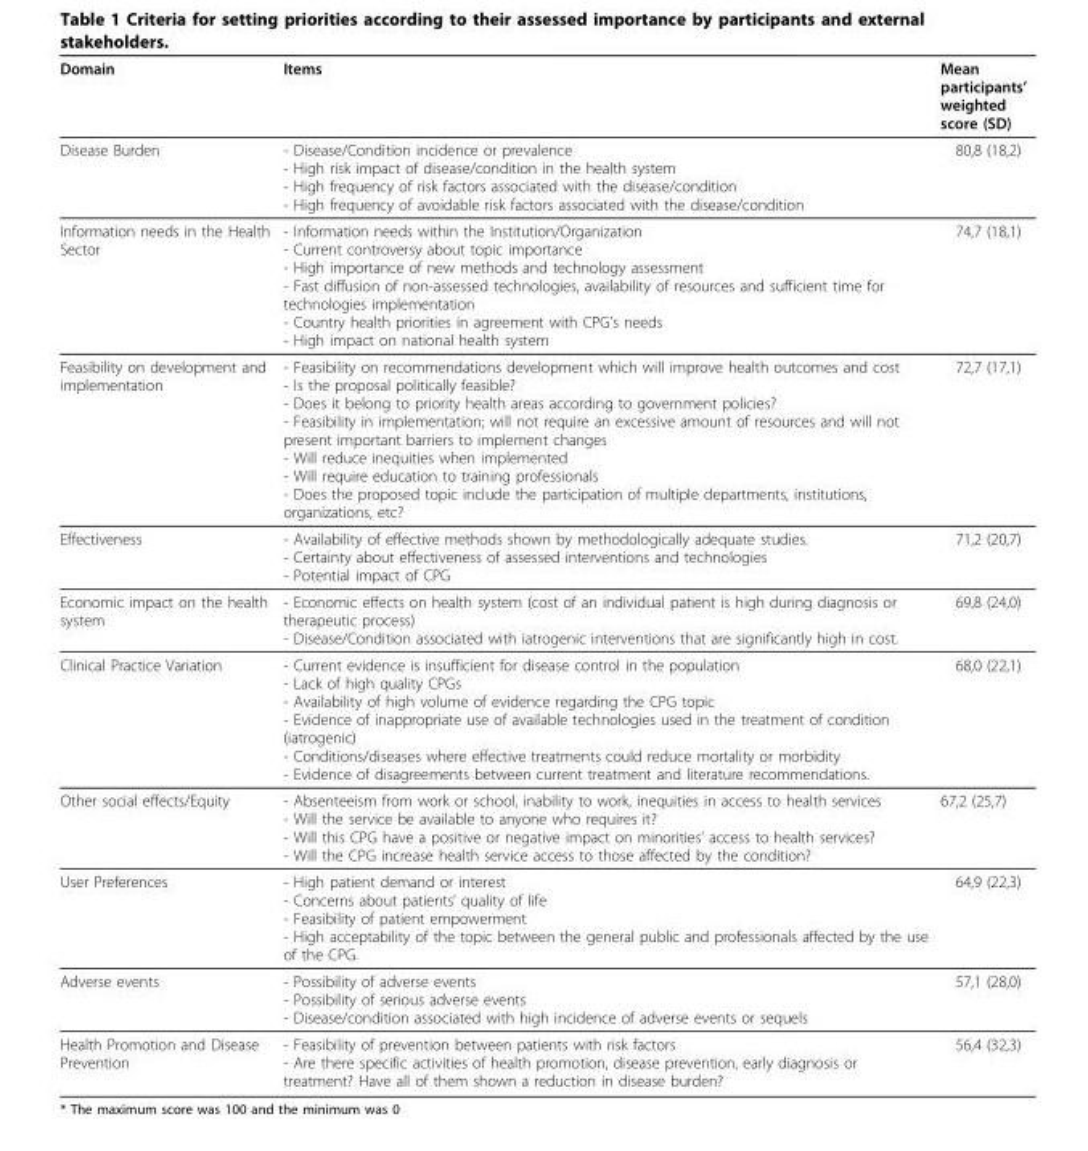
<table><thead><tr><td>Domain</td><td>Items</td><td>Mean participants’ weighted score (SD)</td></tr></thead><tbody><tr><td>Disease Burden</td><td>- Disease/Condition incidence or prevalence - High risk impact of disease/condition in the health system - High frequency of risk factors associated with the disease/condition - High frequency of avoidable risk factors associated with the disease/condition</td><td>80,8 (18,2)</td></tr><tr><td>Information needs in the Health Sector</td><td>- Information needs within the Institution/Organization - Current controversy about topic importance - High importance of new methods and technology assessment - Fast diffusion of non-assessed technologies, availability of resources and sufficient time for technologies implementation - Country health priorities in agreement with CPG’s needs - High impact on national health system</td><td>74,7 (18,1)</td></tr><tr><td>Feasibility on development and implementation</td><td>- Feasibility on recommendations development which will improve health outcomes and cost - Is the proposal politically feasible? - Does it belong to priority health areas according to government policies? - Feasibility in implementation; will not require an excessive amount of resources and will not present important barriers to implement changes - Will reduce inequities when implemented - Will require education to training professionals - Does the proposed topic include the participation of multiple departments, institutions, organizations, etc?</td><td>72,7 (17,1)</td></tr><tr><td>Effectiveness</td><td>- Availability of effective methods shown by methodologically adequate studies. - Certainty about effectiveness of assessed interventions and technologies - Potential impact of CPG</td><td>71,2 (20,7)</td></tr><tr><td>Economic impact on the health system</td><td>- Economic effects on health system (cost of an individual patient is high during diagnosis or therapeutic process) - Disease/Condition associated with iatrogenic interventions that are significantly high in cost.</td><td>69,8 (24,0)</td></tr><tr><td>Clinical Practice Variation</td><td>- Current evidence is insufficient for disease control in the population - Lack of high quality CPGs - Availability of high volume of evidence regarding the CPG topic - Evidence of inappropriate use of available technologies used in the treatment of condition (iatrogenic) - Conditions/diseases where effective treatments could reduce mortality or morbidity - Evidence of disagreements between current treatment and literature recommendations.</td><td>68,0 (22,1)</td></tr><tr><td>Other social effects/Equity</td><td>- Absenteeism from work or school, inability to work, inequities in access to health services - Will the service be available to anyone who requires it? - Will this CPG have a positive or negative impact on minorities’ access to health services? - Will the CPG increase health service access to those affected by the condition?</td><td>67,2 (25,7)</td></tr><tr><td>User Preferences</td><td>- High patient demand or interest - Concerns about patients’ quality of life - Feasibility of patient empowerment - High acceptability of the topic between the general public and professionals affected by the use of the CPG.</td><td>64,9 (22,3)</td></tr><tr><td>Adverse events</td><td>- Possibility of adverse events - Possibility of serious adverse events - Disease/condition associated with high incidence of adverse events or sequels</td><td>57,1 (28,0)</td></tr><tr><td>Health Promotion and Disease Prevention</td><td>- Feasibility of prevention between patients with risk factors - Are there specific activities of health promotion, disease prevention, early diagnosis or treatment? Have all of them shown a reduction in disease burden?</td><td>56,4 (32,3)</td></tr></tbody></table>